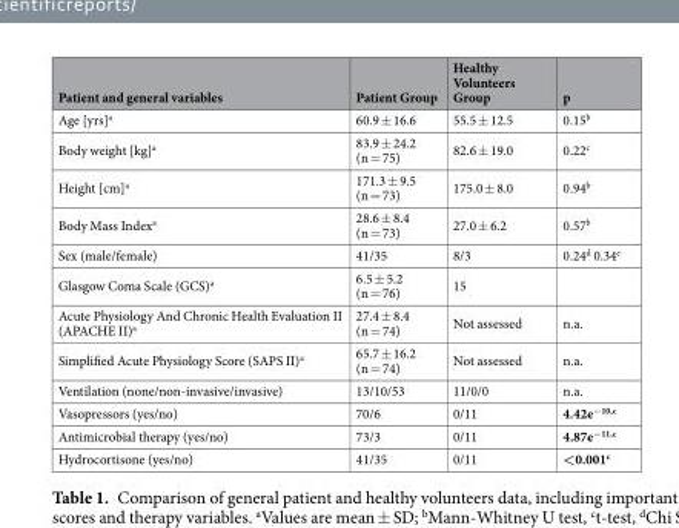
<table><thead><tr><td>Patient and general variables</td><td>Patient Group</td><td>Healthy Volunteers Group</td><td>p</td></tr></thead><tbody><tr><td>Age [yrs]<sup>a</sup></td><td>60.9 ± 16.6</td><td>55.5 ± 12.5</td><td>0.15<sup>b</sup></td></tr><tr><td>Body weight [kg]<sup>a</sup></td><td>83.9 ± 24.2 (n = 75)</td><td>82.6 ± 19.0</td><td>0.22<sup>c</sup></td></tr><tr><td>Height [cm]<sup>a</sup></td><td>171.3 ± 9.5 (n = 73)</td><td>175.0 ± 8.0</td><td>0.94<sup>b</sup></td></tr><tr><td>Body Mass Index<sup>a</sup></td><td>28.6 ± 8.4 (n = 73)</td><td>27.0 ± 6.2</td><td>0.57<sup>b</sup></td></tr><tr><td>Sex (male/female)</td><td>41/35</td><td>8/3</td><td>0.24<sup>d</sup> 0.34<sup>e</sup></td></tr><tr><td>Glasgow Coma Scale (GCS)<sup>a</sup></td><td>6.5 ± 5.2 (n = 76)</td><td>15</td><td></td></tr><tr><td>Acute Physiology And Chronic Health Evaluation II (APACHE II)<sup>a</sup></td><td>27.4 ± 8.4 (n = 74)</td><td>Not assessed</td><td>n.a.</td></tr><tr><td>Simplified Acute Physiology Score (SAPS II)<sup>a</sup></td><td>65.7 ± 16.2 (n = 74)</td><td>Not assessed</td><td>n.a.</td></tr><tr><td>Ventilation (none/non-invasive/invasive)</td><td>13/10/53</td><td>11/0/0</td><td>n.a.</td></tr><tr><td>Vasopressors (yes/no)</td><td>70/6</td><td>0/11</td><td>4.42e<sup>−10,c</sup></td></tr><tr><td>Antimicrobial therapy (yes/no)</td><td>73/3</td><td>0/11</td><td>4.87e<sup>−11,c</sup></td></tr><tr><td>Hydrocortisone (yes/no)</td><td>41/35</td><td>0/11</td><td>&lt;0.001<sup>c</sup></td></tr></tbody></table>